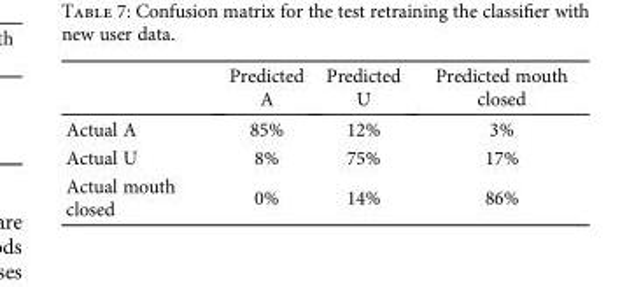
<table><thead><tr><td></td><td>Predicted A</td><td>Predicted U</td><td>Predicted mouth closed</td></tr></thead><tbody><tr><td>Actual A</td><td>85%</td><td>12%</td><td>3%</td></tr><tr><td>Actual U</td><td>8%</td><td>75%</td><td>17%</td></tr><tr><td>Actual mouth closed</td><td>0%</td><td>14%</td><td>86%</td></tr></tbody></table>